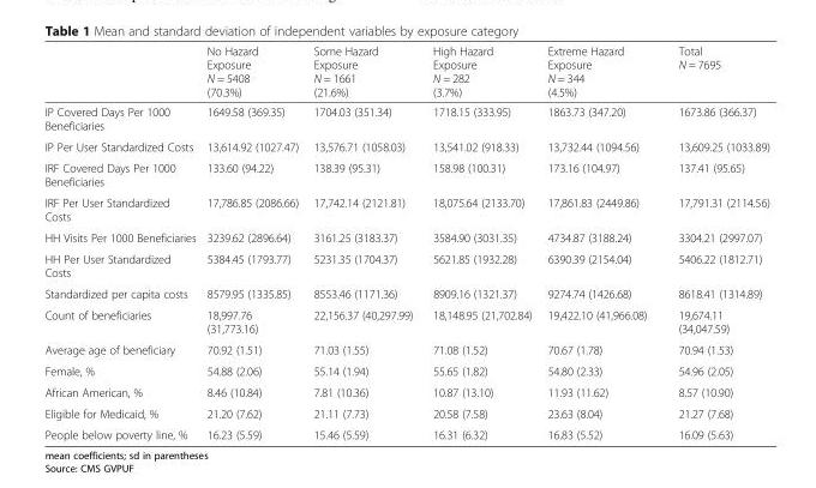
<table><thead><tr><td></td><td>No Hazard Exposure N = 5408 (70.3%)</td><td>Some Hazard Exposure N = 1661 (21.6%)</td><td>High Hazard Exposure N = 282 (3.7%)</td><td>Extreme Hazard Exposure N = 344 (4.5%)</td><td>Total N = 7695</td></tr></thead><tbody><tr><td>IP Covered Days Per 1000 Beneficiaries</td><td>1649.58 (369.35)</td><td>1704.03 (351.34)</td><td>1718.15 (333.95)</td><td>1863.73 (347.20)</td><td>1673.86 (366.37)</td></tr><tr><td>IP Per User Standardized Costs</td><td>13,614.92 (1027.47)</td><td>13,576.71 (1058.03)</td><td>13,541.02 (918.33)</td><td>13,732.44 (1094.56)</td><td>13,609.25 (1033.89)</td></tr><tr><td>IRF Covered Days Per 1000 Beneficiaries</td><td>133.60 (94.22)</td><td>138.39 (95.31)</td><td>158.98 (100.31)</td><td>173.16 (104.97)</td><td>137.41 (95.65)</td></tr><tr><td>IRF Per User Standardized Costs</td><td>17,786.85 (2086.66)</td><td>17,742.14 (2121.81)</td><td>18,075.64 (2133.70)</td><td>17,861.83 (2449.86)</td><td>17,791.31 (2114.56)</td></tr><tr><td>HH Visits Per 1000 Beneficiaries</td><td>3239.62 (2896.64)</td><td>3161.25 (3183.37)</td><td>3584.90 (3031.35)</td><td>4734.87 (3188.24)</td><td>3304.21 (2997.07)</td></tr><tr><td>HH Per User Standardized Costs</td><td>5384.45 (1793.77)</td><td>5231.35 (1704.37)</td><td>5621.85 (1932.28)</td><td>6390.39 (2154.04)</td><td>5406.22 (1812.71)</td></tr><tr><td>Standardized per capita costs</td><td>8579.95 (1335.85)</td><td>8553.46 (1171.36)</td><td>8909.16 (1321.37)</td><td>9274.74 (1426.68)</td><td>8618.41 (1314.89)</td></tr><tr><td>Count of beneficiaries</td><td>18,997.76 (31,773.16)</td><td>22,156.37 (40,297.99)</td><td>18,148.95 (21,702.84)</td><td>19,422.10 (41,966.08)</td><td>19,674.11 (34,047.59)</td></tr><tr><td>Average age of beneficiary</td><td>70.92 (1.51)</td><td>71.03 (1.55)</td><td>71.08 (1.52)</td><td>70.67 (1.78)</td><td>70.94 (1.53)</td></tr><tr><td>Female, %</td><td>54.88 (2.06)</td><td>55.14 (1.94)</td><td>55.65 (1.82)</td><td>54.80 (2.33)</td><td>54.96 (2.05)</td></tr><tr><td>African American, %</td><td>8.46 (10.84)</td><td>7.81 (10.36)</td><td>10.87 (13.10)</td><td>11.93 (11.62)</td><td>8.57 (10.90)</td></tr><tr><td>Eligible for Medicaid, %</td><td>21.20 (7.62)</td><td>21.11 (7.73)</td><td>20.58 (7.58)</td><td>23.63 (8.04)</td><td>21.27 (7.68)</td></tr><tr><td>People below poverty line, %</td><td>16.23 (5.59)</td><td>15.46 (5.59)</td><td>16.31 (6.32)</td><td>16.83 (5.52)</td><td>16.09 (5.63)</td></tr></tbody></table>